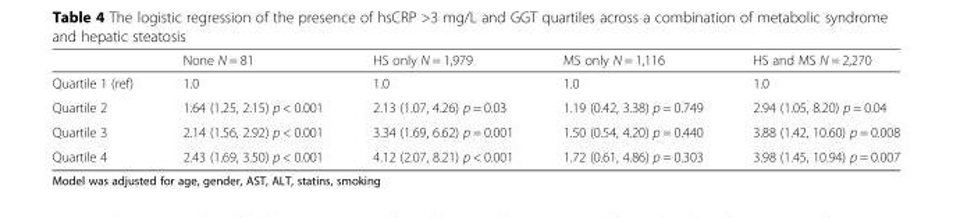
<table><thead><tr><td></td><td>None N = 81</td><td>HS only N = 1,979</td><td>MS only N = 1,116</td><td>HS and MS N = 2,270</td></tr></thead><tbody><tr><td>Quartile 1 (ref)</td><td>1.0</td><td>1.0</td><td>1.0</td><td>1.0</td></tr><tr><td>Quartile 2</td><td>1.64 (1.25, 2.15) p &lt; 0.001</td><td>2.13 (1.07, 4.26) p = 0.03</td><td>1.19 (0.42, 3.38) p = 0.749</td><td>2.94 (1.05, 8.20) p = 0.04</td></tr><tr><td>Quartile 3</td><td>2.14 (1.56, 2.92) p &lt; 0.001</td><td>3.34 (1.69, 6.62) p = 0.001</td><td>1.50 (0.54, 4.20) p = 0.440</td><td>3.88 (1.42, 10.60) p = 0.008</td></tr><tr><td>Quartile 4</td><td>2.43 (1.69, 3.50) p &lt; 0.001</td><td>4.12 (2.07, 8.21) p &lt; 0.001</td><td>1.72 (0.61, 4.86) p = 0.303</td><td>3.98 (1.45, 10.94) p = 0.007</td></tr></tbody></table>